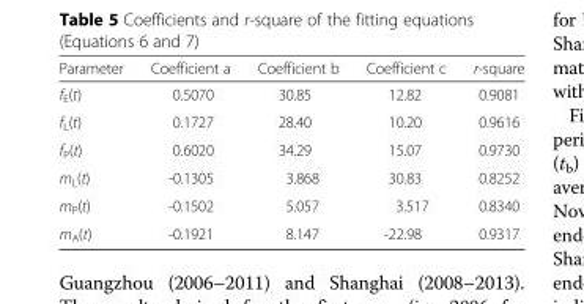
<table><thead><tr><td>Parameter</td><td>Coefficient a</td><td>Coefficient b</td><td>Coefficient c</td><td>r-square</td></tr></thead><tbody><tr><td>f<sub>E</sub>(t)</td><td>0.5070</td><td>30.85</td><td>12.82</td><td>0.9081</td></tr><tr><td>f<sub>L</sub>(t)</td><td>0.1727</td><td>28.40</td><td>10.20</td><td>0.9616</td></tr><tr><td>f<sub>P</sub>(t)</td><td>0.6020</td><td>34.29</td><td>15.07</td><td>0.9730</td></tr><tr><td>m<sub>L</sub>(t)</td><td>-0.1305</td><td>3.868</td><td>30.83</td><td>0.8252</td></tr><tr><td>m<sub>P</sub>(t)</td><td>-0.1502</td><td>5.057</td><td>3.517</td><td>0.8340</td></tr><tr><td>m<sub>A</sub>(t)</td><td>-0.1921</td><td>8.147</td><td>-22.98</td><td>0.9317</td></tr></tbody></table>